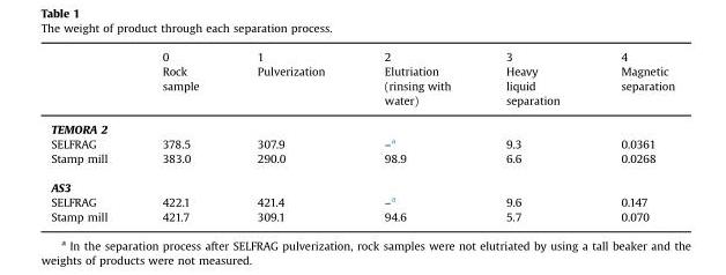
<table><thead><tr><td rowspan="2"></td><td rowspan="2">0 Rock sample</td><td rowspan="2">1 Pulverization</td><td rowspan="2">2 Elutriation (rinsing with water)</td><td rowspan="2">3 Heavy liquid separation</td><td rowspan="2">4 Magnetic separation</td></tr><tr></tr></thead><tbody><tr><td colspan="6">TEMORA 2</td></tr><tr><td>SELFRAG</td><td>378.5</td><td>307.9</td><td>–a</td><td>9.3</td><td>0.0361</td></tr><tr><td>Stamp mill</td><td>383.0</td><td>290.0</td><td>98.9</td><td>6.6</td><td>0.0268</td></tr><tr><td colspan="6">AS3</td></tr><tr><td>SELFRAG</td><td>422.1</td><td>421.4</td><td>–a</td><td>9.6</td><td>0.147</td></tr><tr><td>Stamp mill</td><td>421.7</td><td>309.1</td><td>94.6</td><td>5.7</td><td>0.070</td></tr></tbody></table>